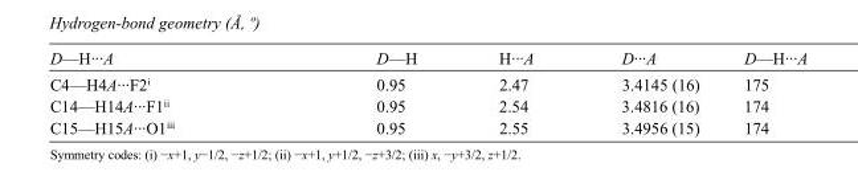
<table><tbody><tr><td>D—H···A</td><td>D—H</td><td>H···A</td><td>D···A</td><td>D—H···A</td></tr><tr><td>C4—H4A···F2<sup>i</sup></td><td>0.95</td><td>2.47</td><td>3.4145 (16)</td><td>175</td></tr><tr><td>C14—H14A···F1<sup>ii</sup></td><td>0.95</td><td>2.54</td><td>3.4816 (16)</td><td>174</td></tr><tr><td>C15—H15A···O1<sup>iii</sup></td><td>0.95</td><td>2.55</td><td>3.4956 (15)</td><td>174</td></tr></tbody></table>